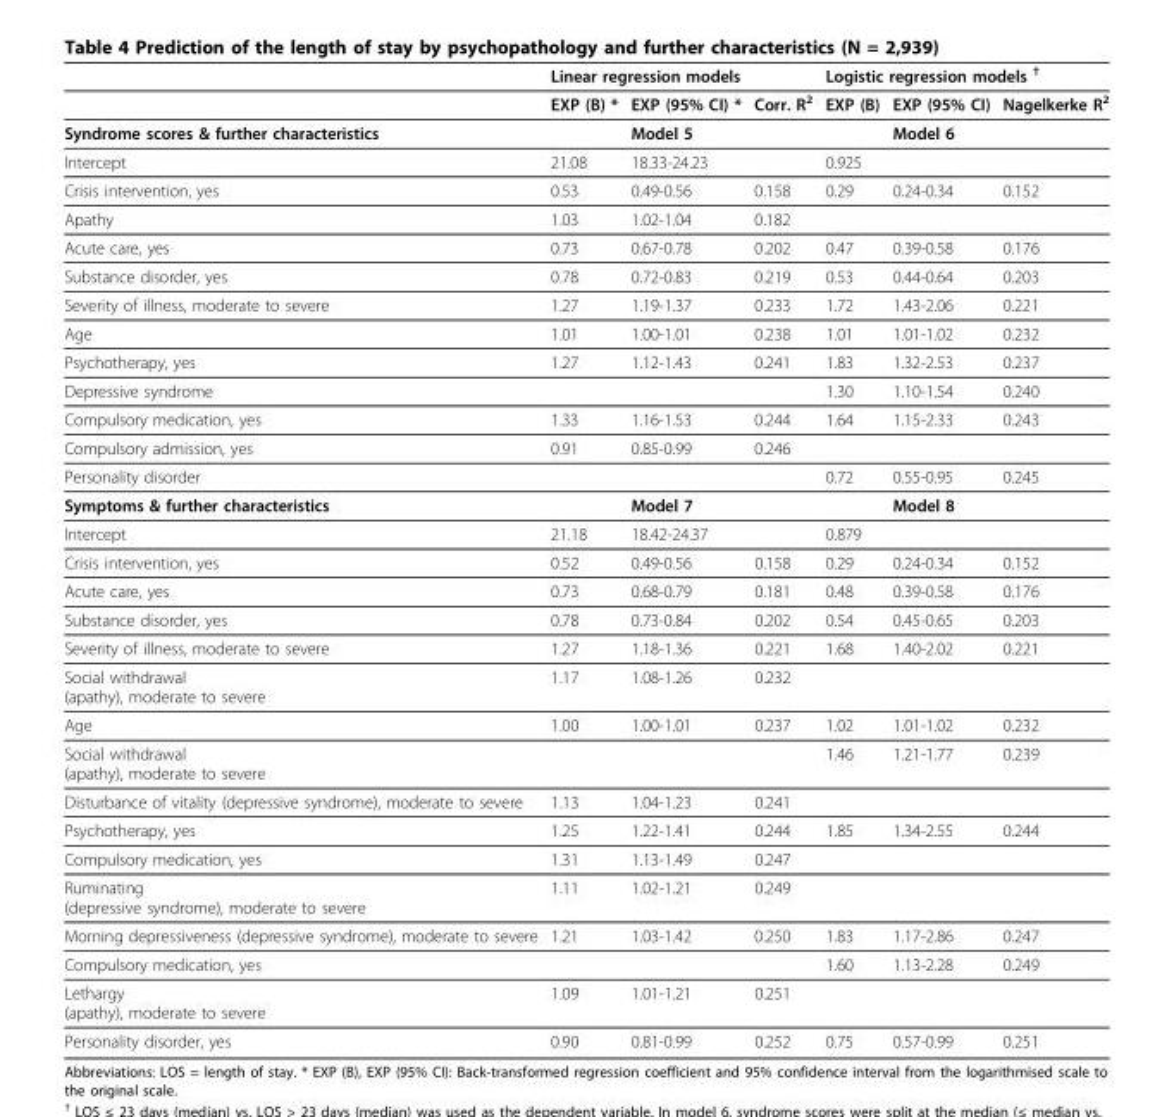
<table><thead><tr><td rowspan="2"></td><td colspan="3">Linear regression models</td><td colspan="3">Logistic regression models <sup>†</sup></td></tr><tr><td>EXP (B) *</td><td>EXP (95% CI) *</td><td>Corr. R<sup>2</sup></td><td>EXP (B)</td><td>EXP (95% CI)</td><td>Nagelkerke R<sup>2</sup></td></tr></thead><tbody><tr><td>Syndrome scores &amp; further characteristics</td><td></td><td>Model 5</td><td></td><td></td><td>Model 6</td><td></td></tr><tr><td>Intercept</td><td>21.08</td><td>18.33-24.23</td><td></td><td>0.925</td><td></td><td></td></tr><tr><td>Crisis intervention, yes</td><td>0.53</td><td>0.49-0.56</td><td>0.158</td><td>0.29</td><td>0.24-0.34</td><td>0.152</td></tr><tr><td>Apathy</td><td>1.03</td><td>1.02-1.04</td><td>0.182</td><td></td><td></td><td></td></tr><tr><td>Acute care, yes</td><td>0.73</td><td>0.67-0.78</td><td>0.202</td><td>0.47</td><td>0.39-0.58</td><td>0.176</td></tr><tr><td>Substance disorder, yes</td><td>0.78</td><td>0.72-0.83</td><td>0.219</td><td>0.53</td><td>0.44-0.64</td><td>0.203</td></tr><tr><td>Severity of illness, moderate to severe</td><td>1.27</td><td>1.19-1.37</td><td>0.233</td><td>1.72</td><td>1.43-2.06</td><td>0.221</td></tr><tr><td>Age</td><td>1.01</td><td>1.00-1.01</td><td>0.238</td><td>1.01</td><td>1.01-1.02</td><td>0.232</td></tr><tr><td>Psychotherapy, yes</td><td>1.27</td><td>1.12-1.43</td><td>0.241</td><td>1.83</td><td>1.32-2.53</td><td>0.237</td></tr><tr><td>Depressive syndrome</td><td></td><td></td><td></td><td>1.30</td><td>1.10-1.54</td><td>0.240</td></tr><tr><td>Compulsory medication, yes</td><td>1.33</td><td>1.16-1.53</td><td>0.244</td><td>1.64</td><td>1.15-2.33</td><td>0.243</td></tr><tr><td>Compulsory admission, yes</td><td>0.91</td><td>0.85-0.99</td><td>0.246</td><td></td><td></td><td></td></tr><tr><td>Personality disorder</td><td></td><td></td><td></td><td>0.72</td><td>0.55-0.95</td><td>0.245</td></tr><tr><td>Symptoms &amp; further characteristics</td><td></td><td>Model 7</td><td></td><td></td><td>Model 8</td><td></td></tr><tr><td>Intercept</td><td>21.18</td><td>18.42-24.37</td><td></td><td>0.879</td><td></td><td></td></tr><tr><td>Crisis intervention, yes</td><td>0.52</td><td>0.49-0.56</td><td>0.158</td><td>0.29</td><td>0.24-0.34</td><td>0.152</td></tr><tr><td>Acute care, yes</td><td>0.73</td><td>0.68-0.79</td><td>0.181</td><td>0.48</td><td>0.39-0.58</td><td>0.176</td></tr><tr><td>Substance disorder, yes</td><td>0.78</td><td>0.73-0.84</td><td>0.202</td><td>0.54</td><td>0.45-0.65</td><td>0.203</td></tr><tr><td>Severity of illness, moderate to severe</td><td>1.27</td><td>1.18-1.36</td><td>0.221</td><td>1.68</td><td>1.40-2.02</td><td>0.221</td></tr><tr><td>Social withdrawal (apathy), moderate to severe</td><td>1.17</td><td>1.08-1.26</td><td>0.232</td><td></td><td></td><td></td></tr><tr><td>Age</td><td>1.00</td><td>1.00-1.01</td><td>0.237</td><td>1.02</td><td>1.01-1.02</td><td>0.232</td></tr><tr><td>Social withdrawal (apathy), moderate to severe</td><td></td><td></td><td></td><td>1.46</td><td>1.21-1.77</td><td>0.239</td></tr><tr><td>Disturbance of vitality (depressive syndrome), moderate to severe</td><td>1.13</td><td>1.04-1.23</td><td>0.241</td><td></td><td></td><td></td></tr><tr><td>Psychotherapy, yes</td><td>1.25</td><td>1.22-1.41</td><td>0.244</td><td>1.85</td><td>1.34-2.55</td><td>0.244</td></tr><tr><td>Compulsory medication, yes</td><td>1.31</td><td>1.13-1.49</td><td>0.247</td><td></td><td></td><td></td></tr><tr><td>Ruminating (depressive syndrome), moderate to severe</td><td>1.11</td><td>1.02-1.21</td><td>0.249</td><td></td><td></td><td></td></tr><tr><td>Morning depressiveness (depressive syndrome), moderate to severe</td><td>1.21</td><td>1.03-1.42</td><td>0.250</td><td>1.83</td><td>1.17-2.86</td><td>0.247</td></tr><tr><td>Compulsory medication, yes</td><td></td><td></td><td></td><td>1.60</td><td>1.13-2.28</td><td>0.249</td></tr><tr><td>Lethargy (apathy), moderate to severe</td><td>1.09</td><td>1.01-1.21</td><td>0.251</td><td></td><td></td><td></td></tr><tr><td>Personality disorder, yes</td><td>0.90</td><td>0.81-0.99</td><td>0.252</td><td>0.75</td><td>0.57-0.99</td><td>0.251</td></tr></tbody></table>